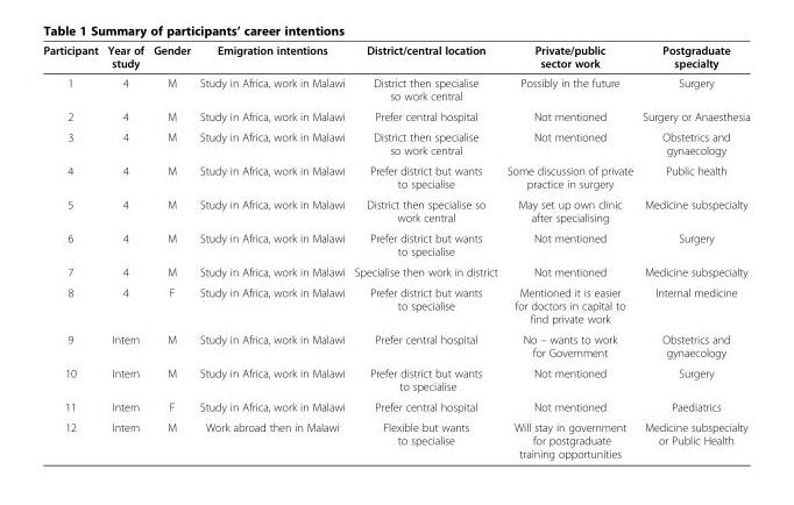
<table><thead><tr><td>Participant</td><td>Year of study</td><td>Gender</td><td>Emigration intentions</td><td>District/central location</td><td>Private/public sector work</td><td>Postgraduate specialty</td></tr></thead><tbody><tr><td>1</td><td>4</td><td>M</td><td>Study in Africa, work in Malawi</td><td>District then specialise so work central</td><td>Possibly in the future</td><td>Surgery</td></tr><tr><td>2</td><td>4</td><td>M</td><td>Study in Africa, work in Malawi</td><td>Prefer central hospital</td><td>Not mentioned</td><td>Surgery or Anaesthesia</td></tr><tr><td>3</td><td>4</td><td>M</td><td>Study in Africa, work in Malawi</td><td>District then specialise so work central</td><td>Not mentioned</td><td>Obstetrics and gynaecology</td></tr><tr><td>4</td><td>4</td><td>M</td><td>Study in Africa, work in Malawi</td><td>Prefer district but wants to specialise</td><td>Some discussion of private practice in surgery</td><td>Public health</td></tr><tr><td>5</td><td>4</td><td>M</td><td>Study in Africa, work in Malawi</td><td>District then specialise so work central</td><td>May set up own clinic after specialising</td><td>Medicine subspecialty</td></tr><tr><td>6</td><td>4</td><td>M</td><td>Study in Africa, work in Malawi</td><td>Prefer district but wants to specialise</td><td>Not mentioned</td><td>Surgery</td></tr><tr><td>7</td><td>4</td><td>M</td><td>Study in Africa, work in Malawi</td><td>Specialise then work in district</td><td>Not mentioned</td><td>Medicine subspecialty</td></tr><tr><td>8</td><td>4</td><td>F</td><td>Study in Africa, work in Malawi</td><td>Prefer district but wants to specialise</td><td>Mentioned it is easier for doctors in capital to find private work</td><td>Internal medicine</td></tr><tr><td>9</td><td>Intern</td><td>M</td><td>Study in Africa, work in Malawi</td><td>Prefer central hospital</td><td>No – wants to work for Government</td><td>Obstetrics and gynaecology</td></tr><tr><td>10</td><td>Intern</td><td>M</td><td>Study in Africa, work in Malawi</td><td>Prefer district but wants to specialise</td><td>Not mentioned</td><td>Surgery</td></tr><tr><td>11</td><td>Intern</td><td>F</td><td>Study in Africa, work in Malawi</td><td>Prefer central hospital</td><td>Not mentioned</td><td>Paediatrics</td></tr><tr><td>12</td><td>Intern</td><td>M</td><td>Work abroad then in Malawi</td><td>Flexible but wants to specialise</td><td>Will stay in government for postgraduate training opportunities</td><td>Medicine subspecialty or Public Health</td></tr></tbody></table>